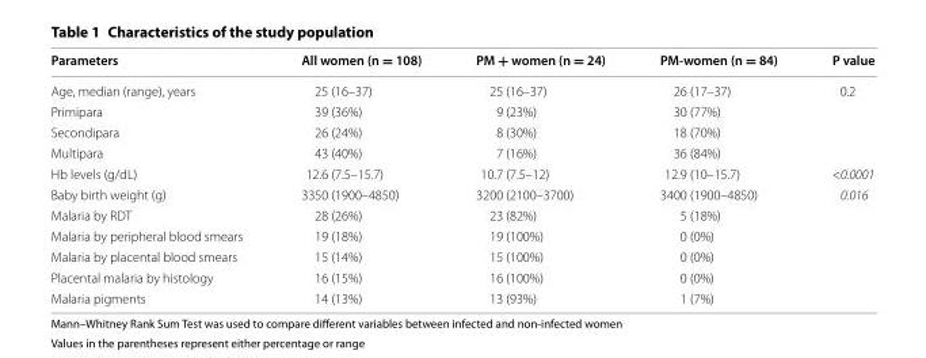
<table><thead><tr><td>Parameters</td><td>All women (n = 108)</td><td>PM + women (n = 24)</td><td>PM-women (n = 84)</td><td>P value</td></tr></thead><tbody><tr><td>Age, median (range), years</td><td>25 (16–37)</td><td>25 (16–37)</td><td>26 (17–37)</td><td>0.2</td></tr><tr><td>Primipara</td><td>39 (36%)</td><td>9 (23%)</td><td>30 (77%)</td><td></td></tr><tr><td>Secondipara</td><td>26 (24%)</td><td>8 (30%)</td><td>18 (70%)</td><td></td></tr><tr><td>Multipara</td><td>43 (40%)</td><td>7 (16%)</td><td>36 (84%)</td><td></td></tr><tr><td>Hb levels (g/dL)</td><td>12.6 (7.5–15.7)</td><td>10.7 (7.5–12)</td><td>12.9 (10–15.7)</td><td>&lt;0.0001</td></tr><tr><td>Baby birth weight (g)</td><td>3350 (1900–4850)</td><td>3200 (2100–3700)</td><td>3400 (1900–4850)</td><td>0.016</td></tr><tr><td>Malaria by RDT</td><td>28 (26%)</td><td>23 (82%)</td><td>5 (18%)</td><td></td></tr><tr><td>Malaria by peripheral blood smears</td><td>19 (18%)</td><td>19 (100%)</td><td>0 (0%)</td><td></td></tr><tr><td>Malaria by placental blood smears</td><td>15 (14%)</td><td>15 (100%)</td><td>0 (0%)</td><td></td></tr><tr><td>Placental malaria by histology</td><td>16 (15%)</td><td>16 (100%)</td><td>0 (0%)</td><td></td></tr><tr><td>Malaria pigments</td><td>14 (13%)</td><td>13 (93%)</td><td>1 (7%)</td><td></td></tr></tbody></table>